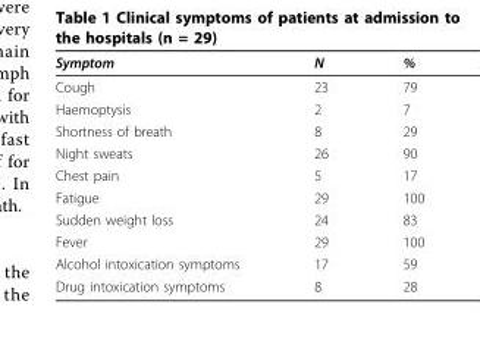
<table><thead><tr><td>Symptom</td><td>N</td><td>%</td></tr></thead><tbody><tr><td>Cough</td><td>23</td><td>79</td></tr><tr><td>Haemoptysis</td><td>2</td><td>7</td></tr><tr><td>Shortness of breath</td><td>8</td><td>29</td></tr><tr><td>Night sweats</td><td>26</td><td>90</td></tr><tr><td>Chest pain</td><td>5</td><td>17</td></tr><tr><td>Fatigue</td><td>29</td><td>100</td></tr><tr><td>Sudden weight loss</td><td>24</td><td>83</td></tr><tr><td>Fever</td><td>29</td><td>100</td></tr><tr><td>Alcohol intoxication symptoms</td><td>17</td><td>59</td></tr><tr><td>Drug intoxication symptoms</td><td>8</td><td>28</td></tr></tbody></table>